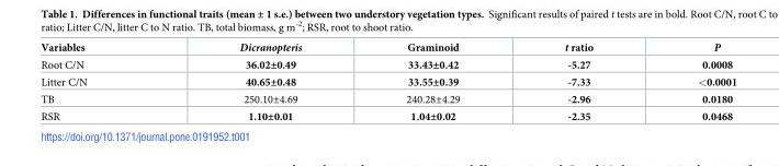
<table><thead><tr><td>Variables</td><td>Dicranopteris</td><td>Graminoid</td><td>t ratio</td><td>P</td></tr></thead><tbody><tr><td>Root C/N</td><td>36.02±0.49</td><td>33.43±0.42</td><td>-5.27</td><td>0.0008</td></tr><tr><td>Litter C/N</td><td>40.65±0.48</td><td>33.55±0.39</td><td>-7.33</td><td>&lt;0.0001</td></tr><tr><td>TB</td><td>250.10±4.69</td><td>240.28±4.29</td><td>-2.96</td><td>0.0180</td></tr><tr><td>RSR</td><td>1.10±0.01</td><td>1.04±0.02</td><td>-2.35</td><td>0.0468</td></tr></tbody></table>